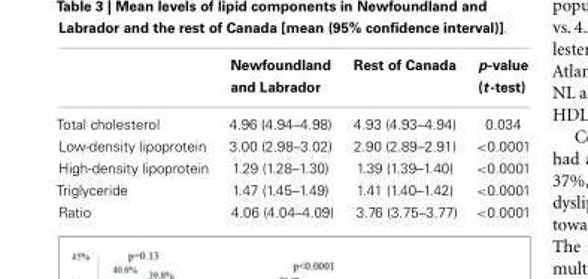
<table><thead><tr><td></td><td>Newfoundland and Labrador</td><td>Rest of Canada</td><td>p-value (t-test)</td></tr></thead><tbody><tr><td>Total cholesterol</td><td>4.96 (4.94–4.98)</td><td>4.93 (4.93–4.94)</td><td>0.034</td></tr><tr><td>Low-density lipoprotein</td><td>3.00 (2.98–3.02)</td><td>2.90 (2.89–2.91)</td><td>&lt;0.0001</td></tr><tr><td>High-density lipoprotein</td><td>1.29 (1.28–1.30)</td><td>1.39 (1.39–1.40)</td><td>&lt;0.0001</td></tr><tr><td>Triglyceride</td><td>1.47 (1.45–1.49)</td><td>1.41 (1.40–1.42)</td><td>&lt;0.0001</td></tr><tr><td>Ratio</td><td>4.06 (4.04–4.09)</td><td>3.76 (3.75–3.77)</td><td>&lt;0.0001</td></tr></tbody></table>